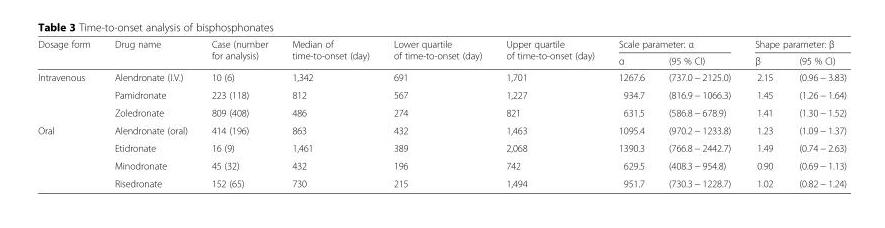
<table><thead><tr><td rowspan="2">Dosage form</td><td rowspan="2">Drug name</td><td rowspan="2">Case (number for analysis)</td><td rowspan="2">Median of time-to-onset (day)</td><td rowspan="2">Lower quartile of time-to-onset (day)</td><td rowspan="2">Upper quartile of time-to-onset (day)</td><td colspan="2">Scale parameter: α</td><td colspan="2">Shape parameter: β</td></tr><tr><td>α</td><td>(95 % CI)</td><td>β</td><td>(95 % CI)</td></tr></thead><tbody><tr><td rowspan="3">Intravenous</td><td>Alendronate (I.V.)</td><td>10 (6)</td><td>1,342</td><td>691</td><td>1,701</td><td>1267.6</td><td>(737.0 − 2125.0)</td><td>2.15</td><td>(0.96 − 3.83)</td></tr><tr><td>Pamidronate</td><td>223 (118)</td><td>812</td><td>567</td><td>1,227</td><td>934.7</td><td>(816.9 − 1066.3)</td><td>1.45</td><td>(1.26 − 1.64)</td></tr><tr><td>Zoledronate</td><td>809 (408)</td><td>486</td><td>274</td><td>821</td><td>631.5</td><td>(586.8 − 678.9)</td><td>1.41</td><td>(1.30 − 1.52)</td></tr><tr><td rowspan="4">Oral</td><td>Alendronate (oral)</td><td>414 (196)</td><td>863</td><td>432</td><td>1,463</td><td>1095.4</td><td>(970.2 − 1233.8)</td><td>1.23</td><td>(1.09 − 1.37)</td></tr><tr><td>Etidronate</td><td>16 (9)</td><td>1,461</td><td>389</td><td>2,068</td><td>1390.3</td><td>(766.8 − 2442.7)</td><td>1.49</td><td>(0.74 − 2.63)</td></tr><tr><td>Minodronate</td><td>45 (32)</td><td>432</td><td>196</td><td>742</td><td>629.5</td><td>(408.3 − 954.8)</td><td>0.90</td><td>(0.69 − 1.13)</td></tr><tr><td>Risedronate</td><td>152 (65)</td><td>730</td><td>215</td><td>1,494</td><td>951.7</td><td>(730.3 − 1228.7)</td><td>1.02</td><td>(0.82 − 1.24)</td></tr></tbody></table>